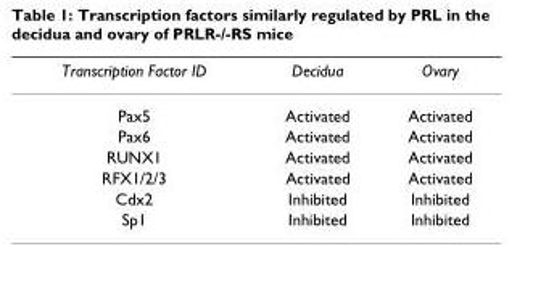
<table><thead><tr><td>Transcription Factor ID</td><td>Decidua</td><td>Ovary</td></tr></thead><tbody><tr><td>Pax5</td><td>Activated</td><td>Activated</td></tr><tr><td>Pax6</td><td>Activated</td><td>Activated</td></tr><tr><td>RUNX1</td><td>Activated</td><td>Activated</td></tr><tr><td>RFX1/2/3</td><td>Activated</td><td>Activated</td></tr><tr><td>Cdx2</td><td>Inhibited</td><td>Inhibited</td></tr><tr><td>Sp1</td><td>Inhibited</td><td>Inhibited</td></tr></tbody></table>